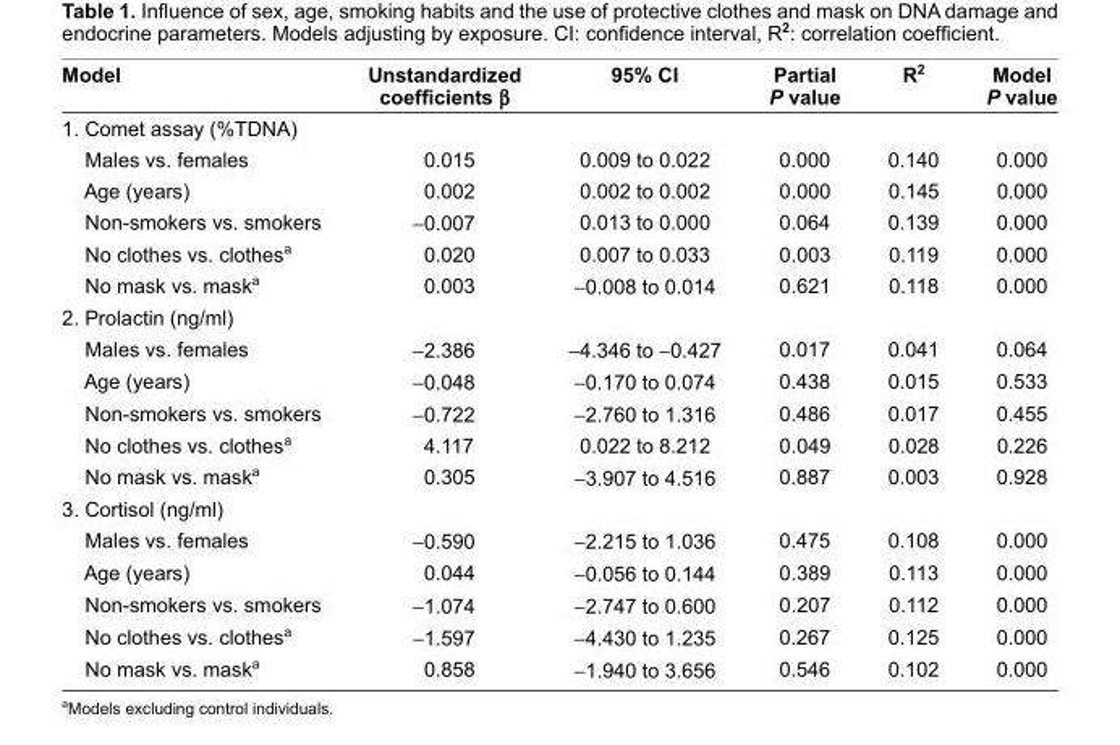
<table><thead><tr><td>Model</td><td>Unstandardized coeffi cients β</td><td>95% CI</td><td>Partial P value</td><td>R<sup>2</sup></td><td>Model P value</td></tr></thead><tbody><tr><td colspan="6">1. Comet assay (%TDNA)</td></tr><tr><td>Males vs. females</td><td>0.015</td><td>0.009 to 0.022</td><td>0.000</td><td>0.140</td><td>0.000</td></tr><tr><td>Age (years)</td><td>0.002</td><td>0.002 to 0.002</td><td>0.000</td><td>0.145</td><td>0.000</td></tr><tr><td>Non-smokers vs. smokers</td><td>−0.007</td><td>0.013 to 0.000</td><td>0.064</td><td>0.139</td><td>0.000</td></tr><tr><td>No clothes vs. clothes<sup>a</sup></td><td>0.020</td><td>0.007 to 0.033</td><td>0.003</td><td>0.119</td><td>0.000</td></tr><tr><td>No mask vs. mask<sup>a</sup></td><td>0.003</td><td>−0.008 to 0.014</td><td>0.621</td><td>0.118</td><td>0.000</td></tr><tr><td colspan="6">2. Prolactin (ng/ml)</td></tr><tr><td>Males vs. females</td><td>−2.386</td><td>−4.346 to −0.427</td><td>0.017</td><td>0.041</td><td>0.064</td></tr><tr><td>Age (years)</td><td>−0.048</td><td>−0.170 to 0.074</td><td>0.438</td><td>0.015</td><td>0.533</td></tr><tr><td>Non-smokers vs. smokers</td><td>−0.722</td><td>−2.760 to 1.316</td><td>0.486</td><td>0.017</td><td>0.455</td></tr><tr><td>No clothes vs. clothes<sup>a</sup></td><td>4.117</td><td>0.022 to 8.212</td><td>0.049</td><td>0.028</td><td>0.226</td></tr><tr><td>No mask vs. mask<sup>a</sup></td><td>0.305</td><td>−3.907 to 4.516</td><td>0.887</td><td>0.003</td><td>0.928</td></tr><tr><td colspan="6">3. Cortisol (ng/ml)</td></tr><tr><td>Males vs. females</td><td>−0.590</td><td>−2.215 to 1.036</td><td>0.475</td><td>0.108</td><td>0.000</td></tr><tr><td>Age (years)</td><td>0.044</td><td>−0.056 to 0.144</td><td>0.389</td><td>0.113</td><td>0.000</td></tr><tr><td>Non-smokers vs. smokers</td><td>−1.074</td><td>−2.747 to 0.600</td><td>0.207</td><td>0.112</td><td>0.000</td></tr><tr><td>No clothes vs. clothes<sup>a</sup></td><td>−1.597</td><td>−4.430 to 1.235</td><td>0.267</td><td>0.125</td><td>0.000</td></tr><tr><td>No mask vs. mask<sup>a</sup></td><td>0.858</td><td>−1.940 to 3.656</td><td>0.546</td><td>0.102</td><td>0.000</td></tr></tbody></table>